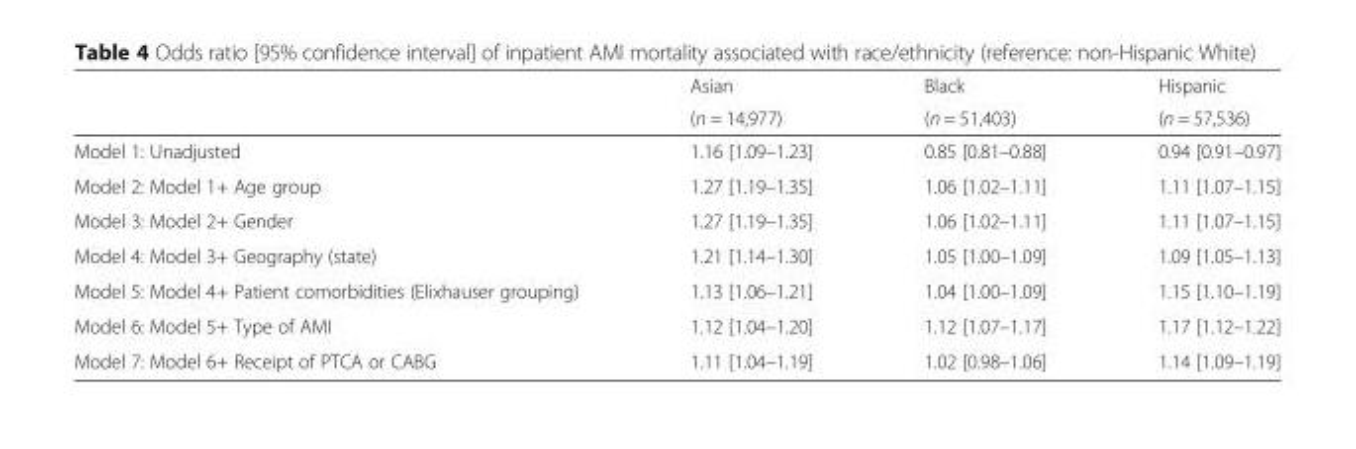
<table><thead><tr><td rowspan="2"></td><td rowspan="2">Asian (n = 14,977)</td><td rowspan="2">Black (n = 51,403)</td><td rowspan="2">Hispanic (n = 57,536)</td></tr><tr></tr></thead><tbody><tr><td>Model 1: Unadjusted</td><td>1.16 [1.09–1.23]</td><td>0.85 [0.81–0.88]</td><td>0.94 [0.91–0.97]</td></tr><tr><td>Model 2: Model 1+ Age group</td><td>1.27 [1.19–1.35]</td><td>1.06 [1.02–1.11]</td><td>1.11 [1.07–1.15]</td></tr><tr><td>Model 3: Model 2+ Gender</td><td>1.27 [1.19–1.35]</td><td>1.06 [1.02–1.11]</td><td>1.11 [1.07–1.15]</td></tr><tr><td>Model 4: Model 3+ Geography (state)</td><td>1.21 [1.14–1.30]</td><td>1.05 [1.00–1.09]</td><td>1.09 [1.05–1.13]</td></tr><tr><td>Model 5: Model 4+ Patient comorbidities (Elixhauser grouping)</td><td>1.13 [1.06–1.21]</td><td>1.04 [1.00–1.09]</td><td>1.15 [1.10–1.19]</td></tr><tr><td>Model 6: Model 5+ Type of AMI</td><td>1.12 [1.04–1.20]</td><td>1.12 [1.07–1.17]</td><td>1.17 [1.12–1.22]</td></tr><tr><td>Model 7: Model 6+ Receipt of PTCA or CABG</td><td>1.11 [1.04–1.19]</td><td>1.02 [0.98–1.06]</td><td>1.14 [1.09–1.19]</td></tr></tbody></table>